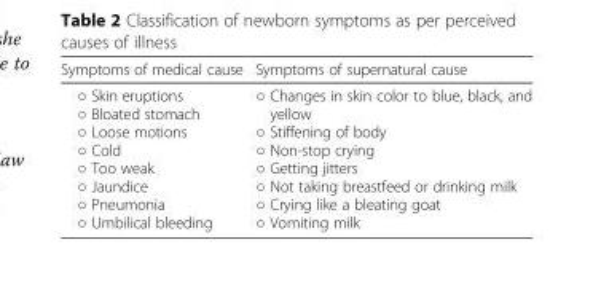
<table><thead><tr><td>Symptoms of medical cause</td><td>Symptoms of supernatural cause</td></tr></thead><tbody><tr><td>○ Skin eruptions ○ Bloated stomach ○ Loose motions ○ Cold ○ Too weak ○ Jaundice ○ Pneumonia ○ Umbilical bleeding</td><td>○ Changes in skin color to blue, black, and yellow ○ Stiffening of body ○ Non-stop crying ○ Getting jitters ○ Not taking breastfeed or drinking milk ○ Crying like a bleating goat ○ Vomiting milk</td></tr></tbody></table>